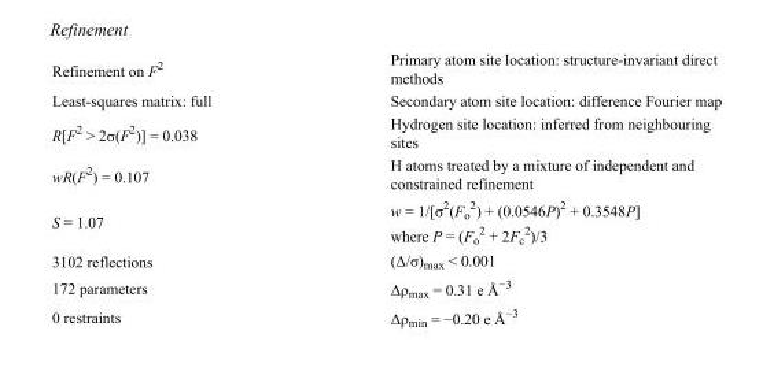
<table><tbody><tr><td>Refinement on F<sup>2</sup></td><td>Primary atom site location: structure-invariant direct methods</td></tr><tr><td>Least-squares matrix: full</td><td>Secondary atom site location: difference Fourier map</td></tr><tr><td>R[F<sup>2</sup> &gt; 2σ(F<sup>2</sup>)] = 0.038</td><td>Hydrogen site location: inferred from neighbouring sites</td></tr><tr><td>wR(F<sup>2</sup>) = 0.107</td><td>H atoms treated by a mixture of independent and constrained refinement</td></tr><tr><td>S = 1.07</td><td>w = 1/[σ<sup>2</sup>(F<sub>o</sub> <sup>2</sup>) + (0.0546P)<sup>2</sup> + 0.3548P] where P = (F<sub>o</sub> <sup>2</sup> + 2F<sub>c</sub> <sup>2</sup>)/3</td></tr><tr><td>3102 reflections</td><td>(Δ/σ)<sub>max</sub> &lt; 0.001</td></tr><tr><td>172 parameters</td><td>Δρ<sub>max</sub> = 0.31 e Å<sup>−3</sup></td></tr><tr><td>0 restraints</td><td>Δρ<sub>min</sub> = −0.20 e Å<sup>−3</sup></td></tr></tbody></table>